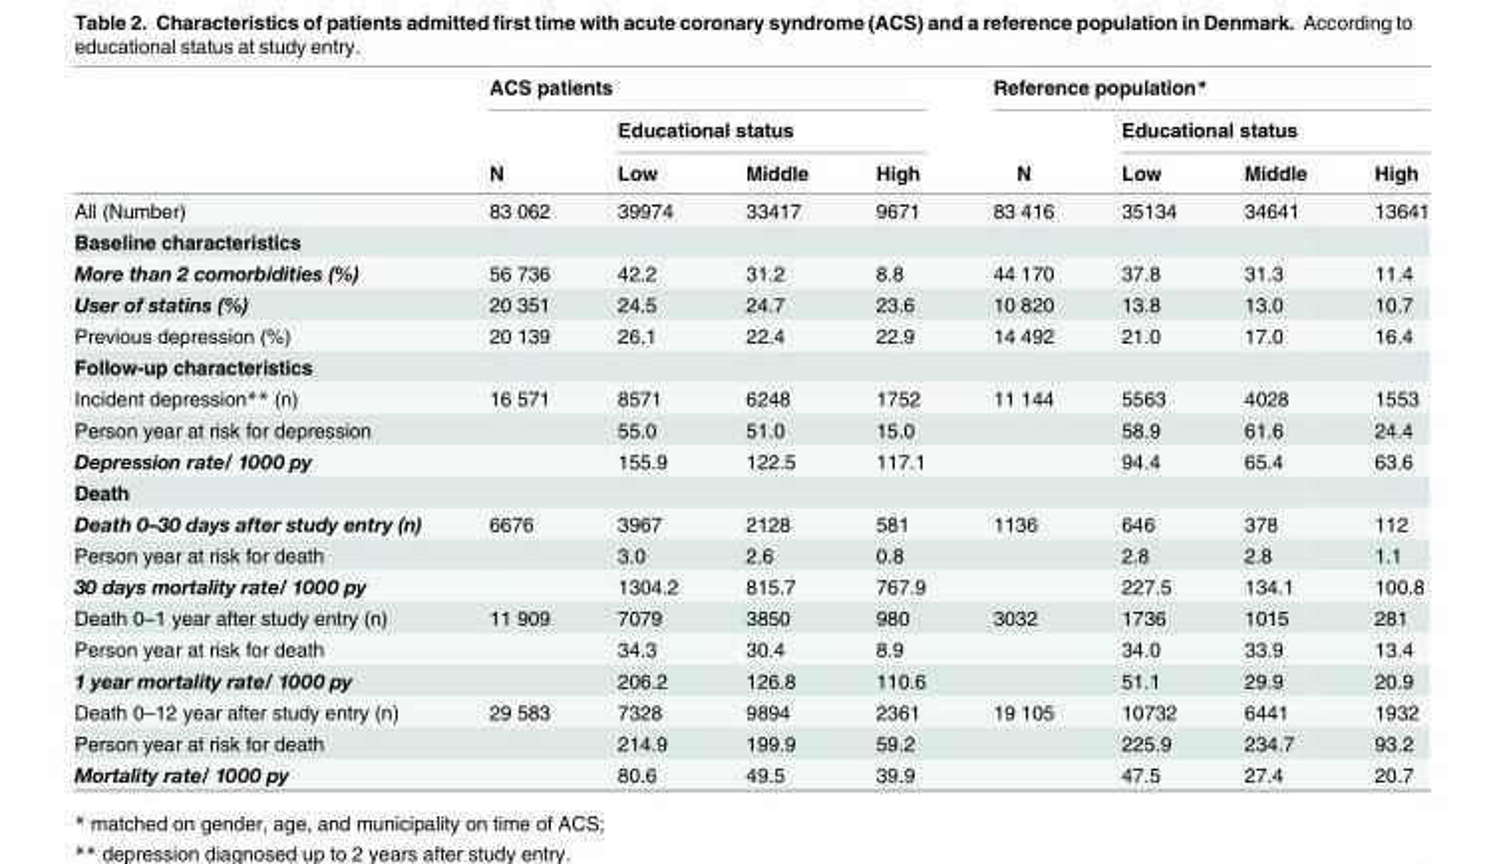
<table><thead><tr><td rowspan="3"></td><td colspan="4">ACS patients</td><td colspan="4">Reference population*</td></tr><tr><td rowspan="2">N</td><td colspan="3">Educational status</td><td rowspan="2">N</td><td colspan="3">Educational status</td></tr><tr><td>Low</td><td>Middle</td><td>High</td><td>Low</td><td>Middle</td><td>High</td></tr></thead><tbody><tr><td>All (Number)</td><td>83 062</td><td>39974</td><td>33417</td><td>9671</td><td>83 416</td><td>35134</td><td>34641</td><td>13641</td></tr><tr><td colspan="9">Baseline characteristics</td></tr><tr><td>More than 2 comorbidities (%)</td><td>56 736</td><td>42.2</td><td>31.2</td><td>8.8</td><td>44 170</td><td>37.8</td><td>31.3</td><td>11.4</td></tr><tr><td>User of statins (%)</td><td>20 351</td><td>24.5</td><td>24.7</td><td>23.6</td><td>10 820</td><td>13.8</td><td>13.0</td><td>10.7</td></tr><tr><td>Previous depression (%)</td><td>20 139</td><td>26.1</td><td>22.4</td><td>22.9</td><td>14 492</td><td>21.0</td><td>17.0</td><td>16.4</td></tr><tr><td colspan="9">Follow-up characteristics</td></tr><tr><td>Incident depression** (n)</td><td>16 571</td><td>8571</td><td>6248</td><td>1752</td><td>11 144</td><td>5563</td><td>4028</td><td>1553</td></tr><tr><td>Person year at risk for depression</td><td></td><td>55.0</td><td>51.0</td><td>15.0</td><td></td><td>58.9</td><td>61.6</td><td>24.4</td></tr><tr><td>Depression rate/ 1000 py</td><td></td><td>155.9</td><td>122.5</td><td>117.1</td><td></td><td>94.4</td><td>65.4</td><td>63.6</td></tr><tr><td colspan="9">Death</td></tr><tr><td>Death 0–30 days after study entry (n)</td><td>6676</td><td>3967</td><td>2128</td><td>581</td><td>1136</td><td>646</td><td>378</td><td>112</td></tr><tr><td>Person year at risk for death</td><td></td><td>3.0</td><td>2.6</td><td>0.8</td><td></td><td>2.8</td><td>2.8</td><td>1.1</td></tr><tr><td>30 days mortality rate/ 1000 py</td><td></td><td>1304.2</td><td>815.7</td><td>767.9</td><td></td><td>227.5</td><td>134.1</td><td>100.8</td></tr><tr><td>Death 0–1 year after study entry (n)</td><td>11 909</td><td>7079</td><td>3850</td><td>980</td><td>3032</td><td>1736</td><td>1015</td><td>281</td></tr><tr><td>Person year at risk for death</td><td></td><td>34.3</td><td>30.4</td><td>8.9</td><td></td><td>34.0</td><td>33.9</td><td>13.4</td></tr><tr><td>1 year mortality rate/ 1000 py</td><td></td><td>206.2</td><td>126.8</td><td>110.6</td><td></td><td>51.1</td><td>29.9</td><td>20.9</td></tr><tr><td>Death 0–12 year after study entry (n)</td><td>29 583</td><td>7328</td><td>9894</td><td>2361</td><td>19 105</td><td>10732</td><td>6441</td><td>1932</td></tr><tr><td>Person year at risk for death</td><td></td><td>214.9</td><td>199.9</td><td>59.2</td><td></td><td>225.9</td><td>234.7</td><td>93.2</td></tr><tr><td>Mortality rate/ 1000 py</td><td></td><td>80.6</td><td>49.5</td><td>39.9</td><td></td><td>47.5</td><td>27.4</td><td>20.7</td></tr></tbody></table>